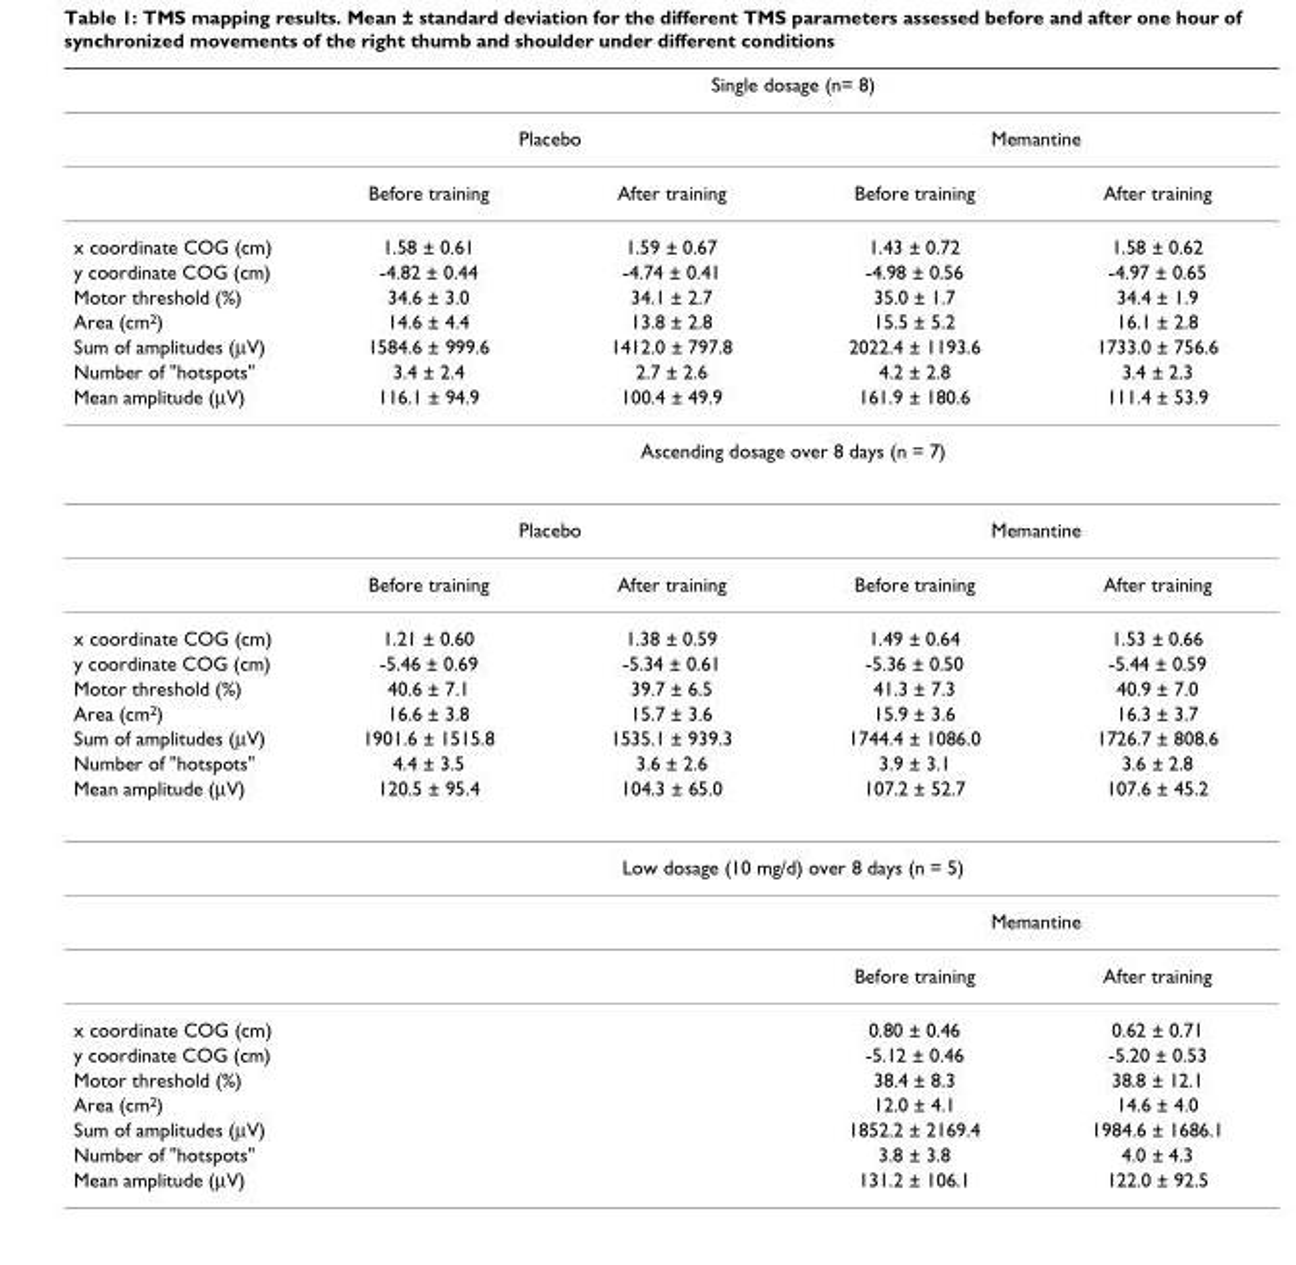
<table><thead><tr><td rowspan="3"></td><td colspan="4">Single dosage (n= 8)</td></tr><tr><td colspan="2">Placebo</td><td colspan="2">Memantine</td></tr><tr><td>Before training</td><td>After training</td><td>Before training</td><td>After training</td></tr></thead><tbody><tr><td>x coordinate COG (cm)</td><td>1.58 ± 0.61</td><td>1.59 ± 0.67</td><td>1.43 ± 0.72</td><td>1.58 ± 0.62</td></tr><tr><td>y coordinate COG (cm)</td><td>-4.82 ± 0.44</td><td>-4.74 ± 0.41</td><td>-4.98 ± 0.56</td><td>-4.97 ± 0.65</td></tr><tr><td>Motor threshold (%)</td><td>34.6 ± 3.0</td><td>34.1 ± 2.7</td><td>35.0 ± 1.7</td><td>34.4 ± 1.9</td></tr><tr><td>Area (cm2)</td><td>14.6 ± 4.4</td><td>13.8 ± 2.8</td><td>15.5 ± 5.2</td><td>16.1 ± 2.8</td></tr><tr><td>Sum of amplitudes (µV)</td><td>1584.6 ± 999.6</td><td>1412.0 ± 797.8</td><td>2022.4 ± 1193.6</td><td>1733.0 ± 756.6</td></tr><tr><td>Number of &quot;hotspots&quot;</td><td>3.4 ± 2.4</td><td>2.7 ± 2.6</td><td>4.2 ± 2.8</td><td>3.4 ± 2.3</td></tr><tr><td rowspan="4">Mean amplitude (µV)</td><td>116.1 ± 94.9</td><td>100.4 ± 49.9</td><td>161.9 ± 180.6</td><td>111.4 ± 53.9</td></tr><tr><td colspan="4">Ascending dosage over 8 days (n = 7)</td></tr><tr><td colspan="2">Placebo</td><td colspan="2">Memantine</td></tr><tr><td>Before training</td><td>After training</td><td>Before training</td><td>After training</td></tr><tr><td>x coordinate COG (cm)</td><td>1.21 ± 0.60</td><td>1.38 ± 0.59</td><td>1.49 ± 0.64</td><td>1.53 ± 0.66</td></tr><tr><td>y coordinate COG (cm)</td><td>-5.46 ± 0.69</td><td>-5.34 ± 0.61</td><td>-5.36 ± 0.50</td><td>-5.44 ± 0.59</td></tr><tr><td>Motor threshold (%)</td><td>40.6 ± 7.1</td><td>39.7 ± 6.5</td><td>41.3 ± 7.3</td><td>40.9 ± 7.0</td></tr><tr><td>Area (cm2)</td><td>16.6 ± 3.8</td><td>15.7 ± 3.6</td><td>15.9 ± 3.6</td><td>16.3 ± 3.7</td></tr><tr><td>Sum of amplitudes (µV)</td><td>1901.6 ± 1515.8</td><td>1535.1 ± 939.3</td><td>1744.4 ± 1086.0</td><td>1726.7 ± 808.6</td></tr><tr><td>Number of &quot;hotspots&quot;</td><td>4.4 ± 3.5</td><td>3.6 ± 2.6</td><td>3.9 ± 3.1</td><td>3.6 ± 2.8</td></tr><tr><td rowspan="4">Mean amplitude (µV)</td><td>120.5 ± 95.4</td><td>104.3 ± 65.0</td><td>107.2 ± 52.7</td><td>107.6 ± 45.2</td></tr><tr><td colspan="4">Low dosage (10 mg/d) over 8 days (n = 5)</td></tr><tr><td></td><td></td><td colspan="2">Memantine</td></tr><tr><td></td><td></td><td>Before training</td><td>After training</td></tr><tr><td>x coordinate COG (cm)</td><td></td><td></td><td>0.80 ± 0.46</td><td>0.62 ± 0.71</td></tr><tr><td>y coordinate COG (cm)</td><td></td><td></td><td>-5.12 ± 0.46</td><td>-5.20 ± 0.53</td></tr><tr><td>Motor threshold (%)</td><td></td><td></td><td>38.4 ± 8.3</td><td>38.8 ± 12.1</td></tr><tr><td>Area (cm2)</td><td></td><td></td><td>12.0 ± 4.1</td><td>14.6 ± 4.0</td></tr><tr><td>Sum of amplitudes (µV)</td><td></td><td></td><td>1852.2 ± 2169.4</td><td>1984.6 ± 1686.1</td></tr><tr><td>Number of &quot;hotspots&quot;</td><td></td><td></td><td>3.8 ± 3.8</td><td>4.0 ± 4.3</td></tr><tr><td>Mean amplitude (µV)</td><td></td><td></td><td>131.2 ± 106.1</td><td>122.0 ± 92.5</td></tr></tbody></table>